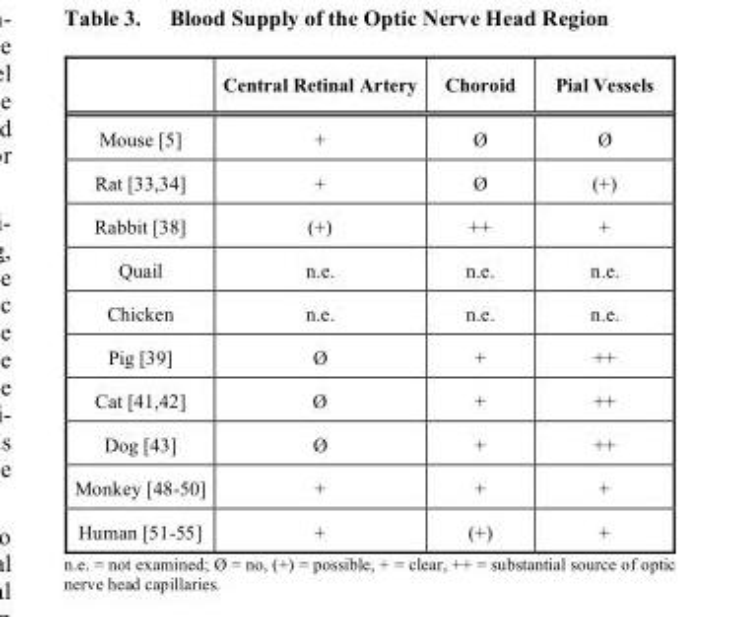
<table><thead><tr><td></td><td>Central Retinal Artery</td><td>Choroid</td><td>Pial Vessels</td></tr></thead><tbody><tr><td>Mouse [5]</td><td>+</td><td>Ø</td><td>Ø</td></tr><tr><td>Rat [33,34]</td><td>+</td><td>Ø</td><td>(+)</td></tr><tr><td>Rabbit [38]</td><td>(+)</td><td>++</td><td>+</td></tr><tr><td>Quail</td><td>n.e.</td><td>n.e.</td><td>n.e.</td></tr><tr><td>Chicken</td><td>n.e.</td><td>n.e.</td><td>n.e.</td></tr><tr><td>Pig [39]</td><td>Ø</td><td>+</td><td>++</td></tr><tr><td>Cat [41,42]</td><td>Ø</td><td>+</td><td>++</td></tr><tr><td>Dog [43]</td><td>Ø</td><td>+</td><td>++</td></tr><tr><td>Monkey [48-50]</td><td>+</td><td>+</td><td>+</td></tr><tr><td>Human [51-55]</td><td>+</td><td>(+)</td><td>+</td></tr></tbody></table>